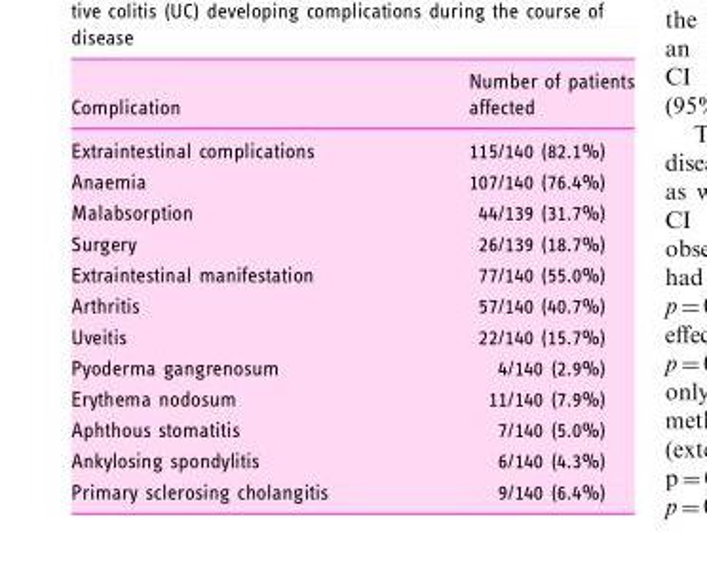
<table><thead><tr><td>Complication</td><td>Number of patients affected</td></tr></thead><tbody><tr><td>Extraintestinal complications</td><td>115/140 (82.1%)</td></tr><tr><td>Anaemia</td><td>107/140 (76.4%)</td></tr><tr><td>Malabsorption</td><td>44/139 (31.7%)</td></tr><tr><td>Surgery</td><td>26/139 (18.7%)</td></tr><tr><td>Extraintestinal manifestation</td><td>77/140 (55.0%)</td></tr><tr><td>Arthritis</td><td>57/140 (40.7%)</td></tr><tr><td>Uveitis</td><td>22/140 (15.7%)</td></tr><tr><td>Pyoderma gangrenosum</td><td>4/140 (2.9%)</td></tr><tr><td>Erythema nodosum</td><td>11/140 (7.9%)</td></tr><tr><td>Aphthous stomatitis</td><td>7/140 (5.0%)</td></tr><tr><td>Ankylosing spondylitis</td><td>6/140 (4.3%)</td></tr><tr><td>Primary sclerosing cholangitis</td><td>9/140 (6.4%)</td></tr></tbody></table>